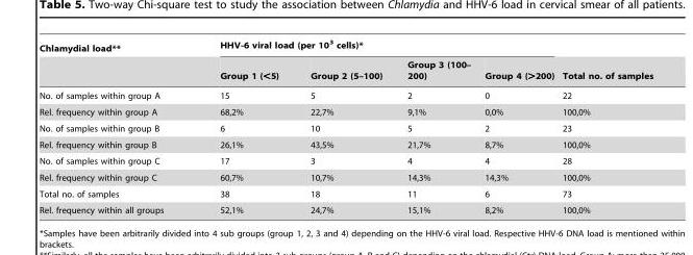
<table><thead><tr><td rowspan="2">Chlamydial load**</td><td colspan="4">HHV-6 viral load (per 10<sup>3</sup> cells)*</td><td rowspan="2">Total no. of samples</td></tr><tr><td>Group 1 (&lt;5)</td><td>Group 2 (5–100)</td><td>Group 3 (100– 200)</td><td>Group 4 (&gt;200)</td></tr></thead><tbody><tr><td>No. of samples within group A</td><td>15</td><td>5</td><td>2</td><td>0</td><td>22</td></tr><tr><td>Rel. frequency within group A</td><td>68,2%</td><td>22,7%</td><td>9,1%</td><td>0,0%</td><td>100,0%</td></tr><tr><td>No. of samples within group B</td><td>6</td><td>10</td><td>5</td><td>2</td><td>23</td></tr><tr><td>Rel. frequency within group B</td><td>26,1%</td><td>43,5%</td><td>21,7%</td><td>8,7%</td><td>100,0%</td></tr><tr><td>No. of samples within group C</td><td>17</td><td>3</td><td>4</td><td>4</td><td>28</td></tr><tr><td>Rel. frequency within group C</td><td>60,7%</td><td>10,7%</td><td>14,3%</td><td>14,3%</td><td>100,0%</td></tr><tr><td>Total no. of samples</td><td>38</td><td>18</td><td>11</td><td>6</td><td>73</td></tr><tr><td>Rel. frequency within all groups</td><td>52,1%</td><td>24,7%</td><td>15,1%</td><td>8,2%</td><td>100,0%</td></tr></tbody></table>